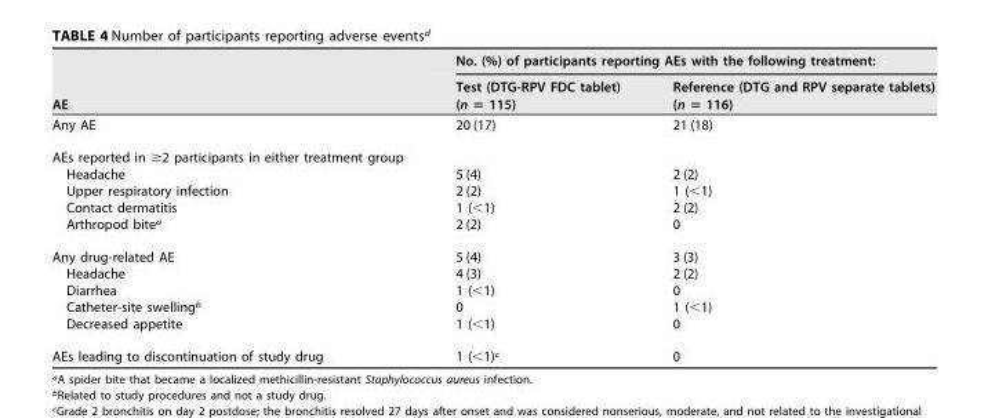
<table><thead><tr><td rowspan="2">AE</td><td colspan="2">No. (%) of participants reporting AEs with the following treatment:</td></tr><tr><td>Test (DTG-RPV FDC tablet) (n = 115)</td><td>Reference (DTG and RPV separate tablets) (n = 116)</td></tr></thead><tbody><tr><td>Any AE</td><td>20 (17)</td><td>21 (18)</td></tr><tr><td colspan="3">AEs reported in ≥2 participants in either treatment group</td></tr><tr><td>Headache</td><td>5 (4)</td><td>2 (2)</td></tr><tr><td>Upper respiratory infection</td><td>2 (2)</td><td>1 (&lt;1)</td></tr><tr><td>Contact dermatitis</td><td>1 (&lt;1)</td><td>2 (2)</td></tr><tr><td>Arthropod bite<sup>a</sup></td><td>2 (2)</td><td>0</td></tr><tr><td>Any drug-related AE</td><td>5 (4)</td><td>3 (3)</td></tr><tr><td>Headache</td><td>4 (3)</td><td>2 (2)</td></tr><tr><td>Diarrhea</td><td>1 (&lt;1)</td><td>0</td></tr><tr><td>Catheter-site swelling<sup>b</sup></td><td>0</td><td>1 (&lt;1)</td></tr><tr><td>Decreased appetite</td><td>1 (&lt;1)</td><td>0</td></tr><tr><td>AEs leading to discontinuation of study drug</td><td>1 (&lt;1)<sup>c</sup></td><td>0</td></tr></tbody></table>